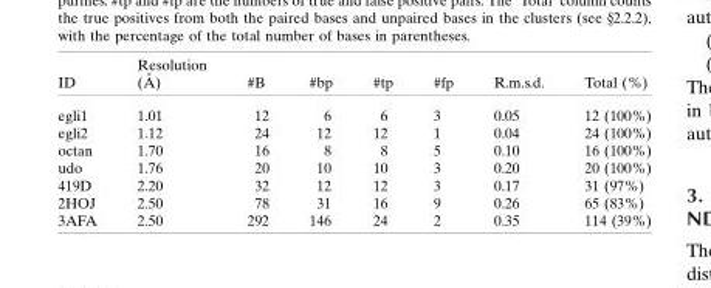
<table><thead><tr><td>ID</td><td>Resolution (A˚ )</td><td>#B</td><td>#bp</td><td>#tp</td><td>#fp</td><td>R.m.s.d.</td><td>Total (%)</td></tr></thead><tbody><tr><td>egli1</td><td>1.01</td><td>12</td><td>6</td><td>6</td><td>3</td><td>0.05</td><td>12 (100%)</td></tr><tr><td>egli2</td><td>1.12</td><td>24</td><td>12</td><td>12</td><td>1</td><td>0.04</td><td>24 (100%)</td></tr><tr><td>octan</td><td>1.70</td><td>16</td><td>8</td><td>8</td><td>5</td><td>0.10</td><td>16 (100%)</td></tr><tr><td>udo</td><td>1.76</td><td>20</td><td>10</td><td>10</td><td>3</td><td>0.20</td><td>20 (100%)</td></tr><tr><td>419D</td><td>2.20</td><td>32</td><td>12</td><td>12</td><td>3</td><td>0.17</td><td>31 (97%)</td></tr><tr><td>2HOJ</td><td>2.50</td><td>78</td><td>31</td><td>16</td><td>9</td><td>0.26</td><td>65 (83%)</td></tr><tr><td>3AFA</td><td>2.50</td><td>292</td><td>146</td><td>24</td><td>2</td><td>0.35</td><td>114 (39%)</td></tr></tbody></table>